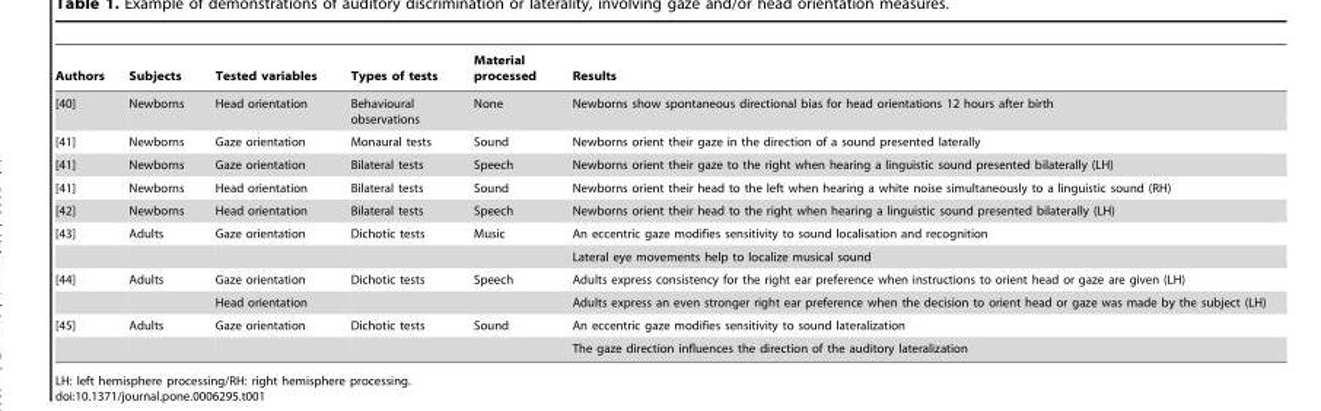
<table><thead><tr><td>Authors</td><td>Subjects</td><td>Tested variables</td><td>Types of tests</td><td>Material processed</td><td>Results</td></tr></thead><tbody><tr><td>[40]</td><td>Newborns</td><td>Head orientation</td><td>Behavioural observations</td><td>None</td><td>Newborns show spontaneous directional bias for head orientations 12 hours after birth</td></tr><tr><td>[41]</td><td>Newborns</td><td>Gaze orientation</td><td>Monaural tests</td><td>Sound</td><td>Newborns orient their gaze in the direction of a sound presented laterally</td></tr><tr><td>[41]</td><td>Newborns</td><td>Gaze orientation</td><td>Bilateral tests</td><td>Speech</td><td>Newborns orient their gaze to the right when hearing a linguistic sound presented bilaterally (LH)</td></tr><tr><td>[41]</td><td>Newborns</td><td>Head orientation</td><td>Bilateral tests</td><td>Sound</td><td>Newborns orient their head to the left when hearing a white noise simultaneously to a linguistic sound (RH)</td></tr><tr><td>[42]</td><td>Newborns</td><td>Head orientation</td><td>Bilateral tests</td><td>Speech</td><td>Newborns orient their head to the right when hearing a linguistic sound presented bilaterally (LH)</td></tr><tr><td rowspan="2">[43]</td><td>Adults</td><td>Gaze orientation</td><td>Dichotic tests</td><td>Music</td><td>An eccentric gaze modifies sensitivity to sound localisation and recognition</td></tr><tr><td></td><td></td><td></td><td></td><td>Lateral eye movements help to localize musical sound</td></tr><tr><td rowspan="2">[44]</td><td>Adults</td><td>Gaze orientation</td><td>Dichotic tests</td><td>Speech</td><td>Adults express consistency for the right ear preference when instructions to orient head or gaze are given (LH)</td></tr><tr><td></td><td>Head orientation</td><td></td><td></td><td>Adults express an even stronger right ear preference when the decision to orient head or gaze was made by the subject (LH)</td></tr><tr><td rowspan="2">[45]</td><td>Adults</td><td>Gaze orientation</td><td>Dichotic tests</td><td>Sound</td><td>An eccentric gaze modifies sensitivity to sound lateralization</td></tr><tr><td></td><td></td><td></td><td></td><td>The gaze direction influences the direction of the auditory lateralization</td></tr></tbody></table>